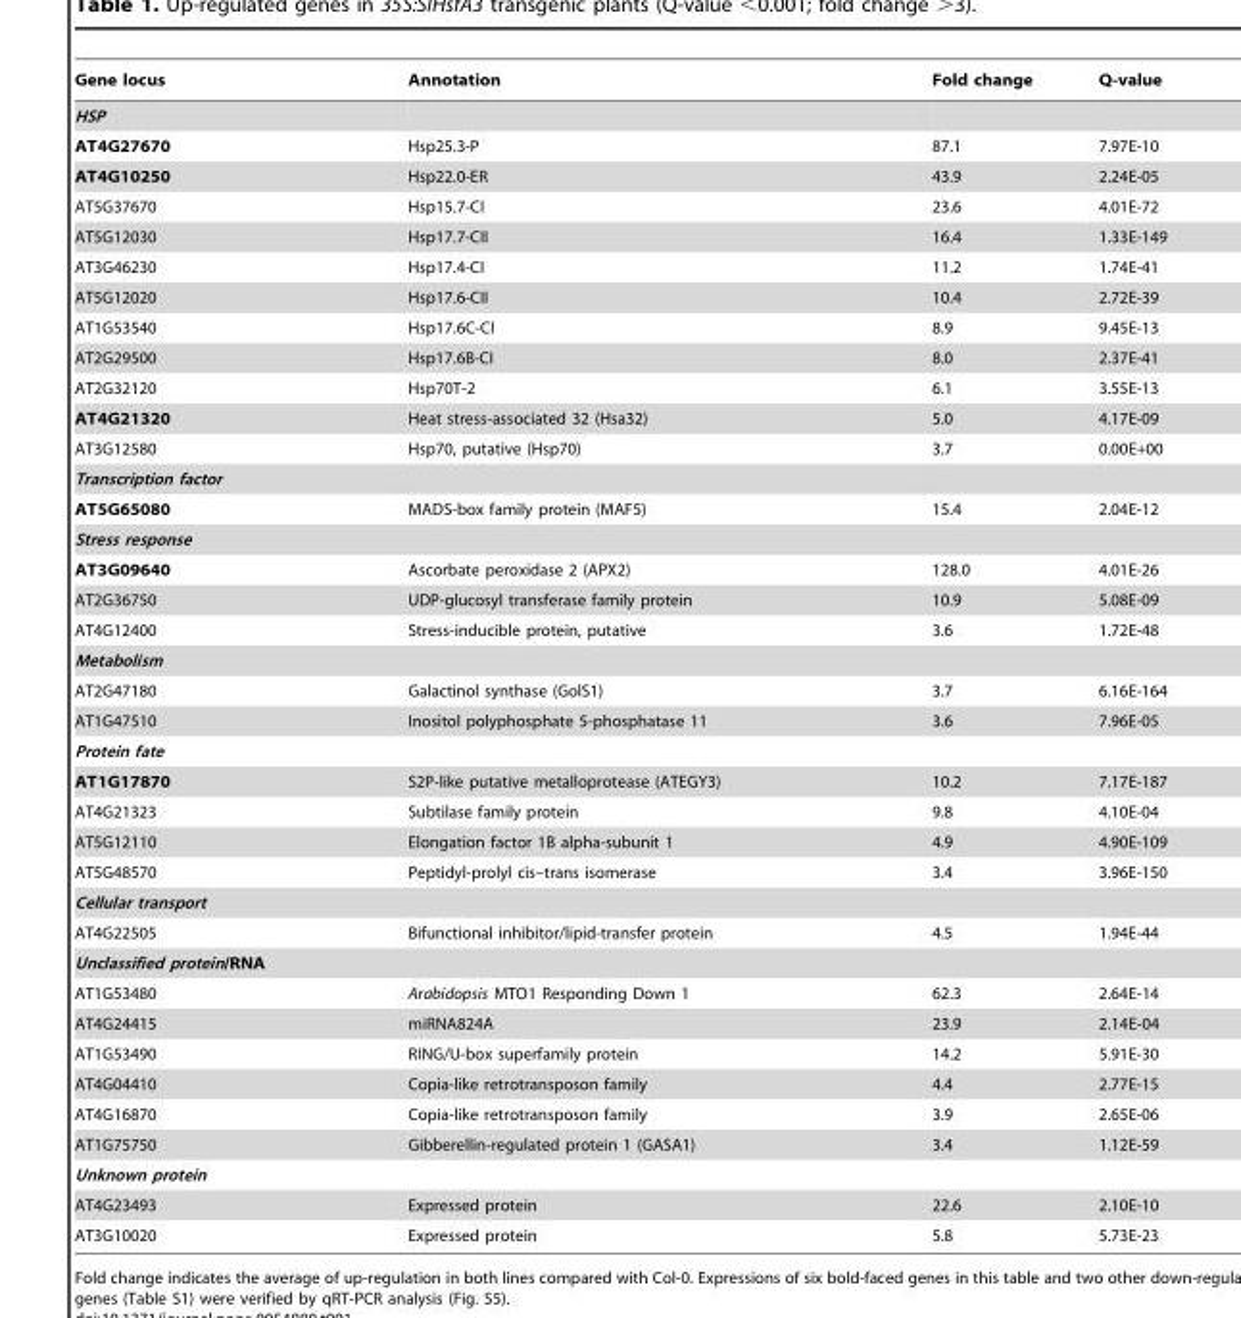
<table><thead><tr><td>Gene locus</td><td>Annotation</td><td>Fold change</td><td>Q-value</td></tr></thead><tbody><tr><td colspan="4">HSP</td></tr><tr><td>AT4G27670</td><td>Hsp25.3-P</td><td>87.1</td><td>7.97E-10</td></tr><tr><td>AT4G10250</td><td>Hsp22.0-ER</td><td>43.9</td><td>2.24E-05</td></tr><tr><td>AT5G37670</td><td>Hsp15.7-CI</td><td>23.6</td><td>4.01E-72</td></tr><tr><td>AT5G12030</td><td>Hsp17.7-CII</td><td>16.4</td><td>1.33E-149</td></tr><tr><td>AT3G46230</td><td>Hsp17.4-CI</td><td>11.2</td><td>1.74E-41</td></tr><tr><td>AT5G12020</td><td>Hsp17.6-CII</td><td>10.4</td><td>2.72E-39</td></tr><tr><td>AT1G53540</td><td>Hsp17.6C-CI</td><td>8.9</td><td>9.45E-13</td></tr><tr><td>AT2G29500</td><td>Hsp17.6B-CI</td><td>8.0</td><td>2.37E-41</td></tr><tr><td>AT2G32120</td><td>Hsp70T-2</td><td>6.1</td><td>3.55E-13</td></tr><tr><td>AT4G21320</td><td>Heat stress-associated 32 (Hsa32)</td><td>5.0</td><td>4.17E-09</td></tr><tr><td>AT3G12580</td><td>Hsp70, putative (Hsp70)</td><td>3.7</td><td>0.00E+00</td></tr><tr><td colspan="4">Transcription factor</td></tr><tr><td>AT5G65080</td><td>MADS-box family protein (MAF5)</td><td>15.4</td><td>2.04E-12</td></tr><tr><td colspan="4">Stress response</td></tr><tr><td>AT3G09640</td><td>Ascorbate peroxidase 2 (APX2)</td><td>128.0</td><td>4.01E-26</td></tr><tr><td>AT2G36750</td><td>UDP-glucosyl transferase family protein</td><td>10.9</td><td>5.08E-09</td></tr><tr><td>AT4G12400</td><td>Stress-inducible protein, putative</td><td>3.6</td><td>1.72E-48</td></tr><tr><td colspan="4">Metabolism</td></tr><tr><td>AT2G47180</td><td>Galactinol synthase (GolS1)</td><td>3.7</td><td>6.16E-164</td></tr><tr><td>AT1G47510</td><td>Inositol polyphosphate 5-phosphatase 11</td><td>3.6</td><td>7.96E-05</td></tr><tr><td colspan="4">Protein fate</td></tr><tr><td>AT1G17870</td><td>S2P-like putative metalloprotease (ATEGY3)</td><td>10.2</td><td>7.17E-187</td></tr><tr><td>AT4G21323</td><td>Subtilase family protein</td><td>9.8</td><td>4.10E-04</td></tr><tr><td>AT5G12110</td><td>Elongation factor 1B alpha-subunit 1</td><td>4.9</td><td>4.90E-109</td></tr><tr><td>AT5G48570</td><td>Peptidyl-prolyl cis–trans isomerase</td><td>3.4</td><td>3.96E-150</td></tr><tr><td colspan="4">Cellular transport</td></tr><tr><td>AT4G22505</td><td>Bifunctional inhibitor/lipid-transfer protein</td><td>4.5</td><td>1.94E-44</td></tr><tr><td colspan="4">Unclassified protein/RNA</td></tr><tr><td>AT1G53480</td><td>Arabidopsis MTO1 Responding Down 1</td><td>62.3</td><td>2.64E-14</td></tr><tr><td>AT4G24415</td><td>miRNA824A</td><td>23.9</td><td>2.14E-04</td></tr><tr><td>AT1G53490</td><td>RING/U-box superfamily protein</td><td>14.2</td><td>5.91E-30</td></tr><tr><td>AT4G04410</td><td>Copia-like retrotransposon family</td><td>4.4</td><td>2.77E-15</td></tr><tr><td>AT4G16870</td><td>Copia-like retrotransposon family</td><td>3.9</td><td>2.65E-06</td></tr><tr><td>AT1G75750</td><td>Gibberellin-regulated protein 1 (GASA1)</td><td>3.4</td><td>1.12E-59</td></tr><tr><td colspan="4">Unknown protein</td></tr><tr><td>AT4G23493</td><td>Expressed protein</td><td>22.6</td><td>2.10E-10</td></tr><tr><td>AT3G10020</td><td>Expressed protein</td><td>5.8</td><td>5.73E-23</td></tr></tbody></table>